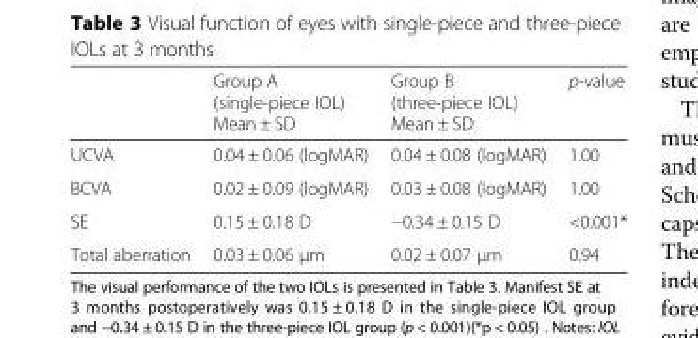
<table><thead><tr><td></td><td>Group A (single-piece IOL) Mean ± SD</td><td>Group B (three-piece IOL) Mean ± SD</td><td>p-value</td></tr></thead><tbody><tr><td>UCVA</td><td>0.04 ± 0.06 (logMAR)</td><td>0.04 ± 0.08 (logMAR)</td><td>1.00</td></tr><tr><td>BCVA</td><td>0.02 ± 0.09 (logMAR)</td><td>0.03 ± 0.08 (logMAR)</td><td>1.00</td></tr><tr><td>SE</td><td>0.15 ± 0.18 D</td><td>−0.34 ± 0.15 D</td><td>&lt;0.001*</td></tr><tr><td>Total aberration</td><td>0.03 ± 0.06 μm</td><td>0.02 ± 0.07 μm</td><td>0.94</td></tr></tbody></table>